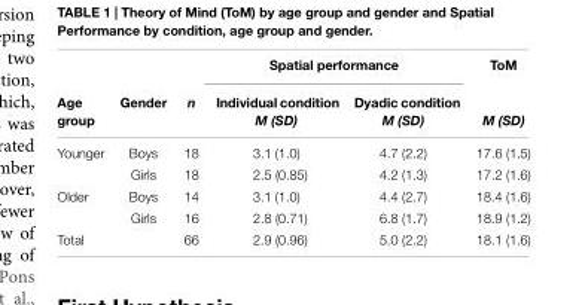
<table><thead><tr><td rowspan="2">Age group</td><td rowspan="2">Gender</td><td rowspan="2">n</td><td colspan="2">Spatial performance</td><td rowspan="2">ToM M (SD)</td></tr><tr><td>Individual condition M (SD)</td><td>Dyadic condition M (SD)</td></tr></thead><tbody><tr><td rowspan="2">Younger</td><td>Boys</td><td>18</td><td>3.1 (1.0)</td><td>4.7 (2.2)</td><td>17.6 (1.5)</td></tr><tr><td>Girls</td><td>18</td><td>2.5 (0.85)</td><td>4.2 (1.3)</td><td>17.2 (1.6)</td></tr><tr><td rowspan="2">Older</td><td>Boys</td><td>14</td><td>3.1 (1.0)</td><td>4.4 (2.7)</td><td>18.4 (1.6)</td></tr><tr><td>Girls</td><td>16</td><td>2.8 (0.71)</td><td>6.8 (1.7)</td><td>18.9 (1.2)</td></tr><tr><td>Total</td><td></td><td>66</td><td>2.9 (0.96)</td><td>5.0 (2.2)</td><td>18.1 (1.6)</td></tr></tbody></table>